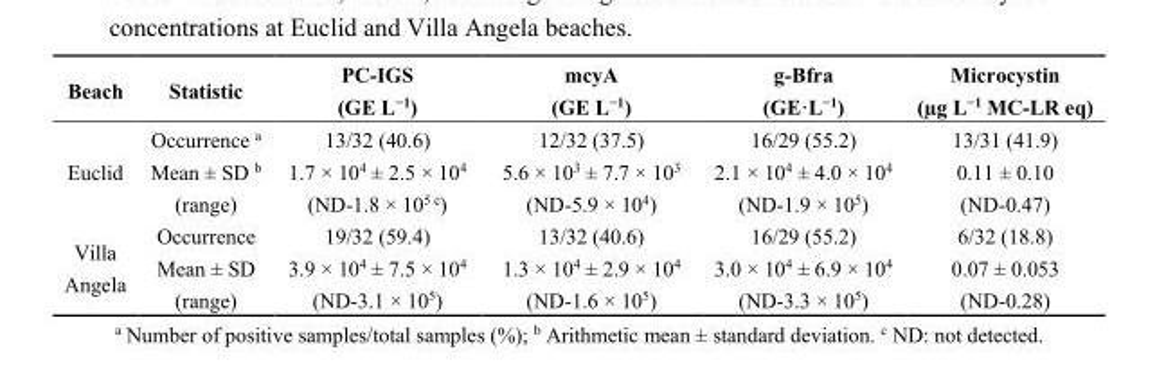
<table><thead><tr><td>Beach</td><td>Statistic</td><td>PC-IGS (GE L<sup>−1</sup>)</td><td>mcyA (GE L<sup>−1</sup>)</td><td>g-Bfra (GE·L<sup>−1</sup>)</td><td>Microcystin (µg L<sup>−1</sup> MC-LR eq)</td></tr></thead><tbody><tr><td rowspan="2">Euclid</td><td>Occurrence <sup>a</sup></td><td>13/32 (40.6)</td><td>12/32 (37.5)</td><td>16/29 (55.2)</td><td>13/31 (41.9)</td></tr><tr><td>Mean ± SD <sup>b</sup> (range)</td><td>1.7 × 10<sup>4</sup> ± 2.5 × 10<sup>4</sup> (ND-1.8 × 10<sup>5 c</sup>)</td><td>5.6 × 10<sup>3</sup> ± 7.7 × 10<sup>3</sup> (ND-5.9 × 10<sup>4</sup>)</td><td>2.1 × 10<sup>4</sup> ± 4.0 × 10<sup>4</sup> (ND-1.9 × 10<sup>5</sup>)</td><td>0.11 ± 0.10 (ND-0.47)</td></tr><tr><td rowspan="2">Villa Angela</td><td>Occurrence</td><td>19/32 (59.4)</td><td>13/32 (40.6)</td><td>16/29 (55.2)</td><td>6/32 (18.8)</td></tr><tr><td>Mean ± SD (range)</td><td>3.9 × 10<sup>4</sup> ± 7.5 × 10<sup>4</sup> (ND-3.1 × 10<sup>5</sup>)</td><td>1.3 × 10<sup>4</sup> ± 2.9 × 10<sup>4</sup> (ND-1.6 × 10<sup>5</sup>)</td><td>3.0 × 10<sup>4</sup> ± 6.9 × 10<sup>4</sup> (ND-3.3 × 10<sup>5</sup>)</td><td>0.07 ± 0.053 (ND-0.28)</td></tr></tbody></table>